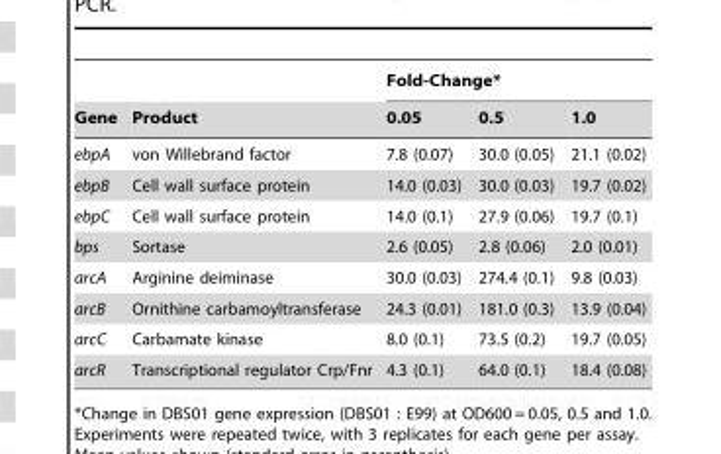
<table><thead><tr><td rowspan="2">Gene</td><td rowspan="2">Product</td><td colspan="3">Fold-Change*</td></tr><tr><td>0.05</td><td>0.5</td><td>1.0</td></tr></thead><tbody><tr><td>ebpA</td><td>von Willebrand factor</td><td>7.8 (0.07)</td><td>30.0 (0.05)</td><td>21.1 (0.02)</td></tr><tr><td>ebpB</td><td>Cell wall surface protein</td><td>14.0 (0.03)</td><td>30.0 (0.03)</td><td>19.7 (0.02)</td></tr><tr><td>ebpC</td><td>Cell wall surface protein</td><td>14.0 (0.1)</td><td>27.9 (0.06)</td><td>19.7 (0.1)</td></tr><tr><td>bps</td><td>Sortase</td><td>2.6 (0.05)</td><td>2.8 (0.06)</td><td>2.0 (0.01)</td></tr><tr><td>arcA</td><td>Arginine deiminase</td><td>30.0 (0.03)</td><td>274.4 (0.1)</td><td>9.8 (0.03)</td></tr><tr><td>arcB</td><td>Ornithine carbamoyltransferase</td><td>24.3 (0.01)</td><td>181.0 (0.3)</td><td>13.9 (0.04)</td></tr><tr><td>arcC</td><td>Carbamate kinase</td><td>8.0 (0.1)</td><td>73.5 (0.2)</td><td>19.7 (0.05)</td></tr><tr><td>arcR</td><td>Transcriptional regulator Crp/Fnr</td><td>4.3 (0.1)</td><td>64.0 (0.1)</td><td>18.4 (0.08)</td></tr></tbody></table>